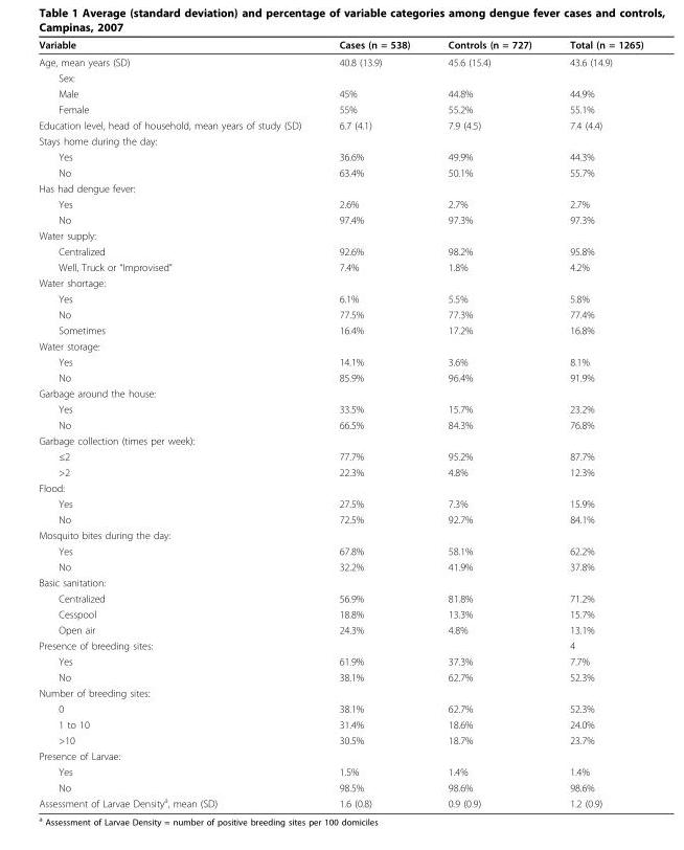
<table><thead><tr><td>Variable</td><td>Cases (n = 538)</td><td>Controls (n = 727)</td><td>Total (n = 1265)</td></tr></thead><tbody><tr><td>Age, mean years (SD)</td><td>40.8 (13.9)</td><td>45.6 (15.4)</td><td>43.6 (14.9)</td></tr><tr><td colspan="4">Sex:</td></tr><tr><td>Male</td><td>45%</td><td>44.8%</td><td>44.9%</td></tr><tr><td>Female</td><td>55%</td><td>55.2%</td><td>55.1%</td></tr><tr><td>Education level, head of household, mean years of study (SD)</td><td>6.7 (4.1)</td><td>7.9 (4.5)</td><td>7.4 (4.4)</td></tr><tr><td colspan="4">Stays home during the day:</td></tr><tr><td>Yes</td><td>36.6%</td><td>49.9%</td><td>44.3%</td></tr><tr><td>No</td><td>63.4%</td><td>50.1%</td><td>55.7%</td></tr><tr><td colspan="4">Has had dengue fever:</td></tr><tr><td>Yes</td><td>2.6%</td><td>2.7%</td><td>2.7%</td></tr><tr><td>No</td><td>97.4%</td><td>97.3%</td><td>97.3%</td></tr><tr><td colspan="4">Water supply:</td></tr><tr><td>Centralized</td><td>92.6%</td><td>98.2%</td><td>95.8%</td></tr><tr><td>Well, Truck or “Improvised”</td><td>7.4%</td><td>1.8%</td><td>4.2%</td></tr><tr><td colspan="4">Water shortage:</td></tr><tr><td>Yes</td><td>6.1%</td><td>5.5%</td><td>5.8%</td></tr><tr><td>No</td><td>77.5%</td><td>77.3%</td><td>77.4%</td></tr><tr><td>Sometimes</td><td>16.4%</td><td>17.2%</td><td>16.8%</td></tr><tr><td colspan="4">Water storage:</td></tr><tr><td>Yes</td><td>14.1%</td><td>3.6%</td><td>8.1%</td></tr><tr><td>No</td><td>85.9%</td><td>96.4%</td><td>91.9%</td></tr><tr><td colspan="4">Garbage around the house:</td></tr><tr><td>Yes</td><td>33.5%</td><td>15.7%</td><td>23.2%</td></tr><tr><td>No</td><td>66.5%</td><td>84.3%</td><td>76.8%</td></tr><tr><td colspan="4">Garbage collection (times per week):</td></tr><tr><td>≤2</td><td>77.7%</td><td>95.2%</td><td>87.7%</td></tr><tr><td>&gt;2</td><td>22.3%</td><td>4.8%</td><td>12.3%</td></tr><tr><td colspan="4">Flood:</td></tr><tr><td>Yes</td><td>27.5%</td><td>7.3%</td><td>15.9%</td></tr><tr><td>No</td><td>72.5%</td><td>92.7%</td><td>84.1%</td></tr><tr><td colspan="4">Mosquito bites during the day:</td></tr><tr><td>Yes</td><td>67.8%</td><td>58.1%</td><td>62.2%</td></tr><tr><td>No</td><td>32.2%</td><td>41.9%</td><td>37.8%</td></tr><tr><td colspan="4">Basic sanitation:</td></tr><tr><td>Centralized</td><td>56.9%</td><td>81.8%</td><td>71.2%</td></tr><tr><td>Cesspool</td><td>18.8%</td><td>13.3%</td><td>15.7%</td></tr><tr><td>Open air</td><td>24.3%</td><td>4.8%</td><td>13.1%</td></tr><tr><td>Presence of breeding sites:</td><td></td><td></td><td>4</td></tr><tr><td>Yes</td><td>61.9%</td><td>37.3%</td><td>7.7%</td></tr><tr><td>No</td><td>38.1%</td><td>62.7%</td><td>52.3%</td></tr><tr><td colspan="4">Number of breeding sites:</td></tr><tr><td>0</td><td>38.1%</td><td>62.7%</td><td>52.3%</td></tr><tr><td>1 to 10</td><td>31.4%</td><td>18.6%</td><td>24.0%</td></tr><tr><td>&gt;10</td><td>30.5%</td><td>18.7%</td><td>23.7%</td></tr><tr><td colspan="4">Presence of Larvae:</td></tr><tr><td>Yes</td><td>1.5%</td><td>1.4%</td><td>1.4%</td></tr><tr><td>No</td><td>98.5%</td><td>98.6%</td><td>98.6%</td></tr><tr><td>Assessment of Larvae Density<sup>a</sup>, mean (SD)</td><td>1.6 (0.8)</td><td>0.9 (0.9)</td><td>1.2 (0.9)</td></tr></tbody></table>